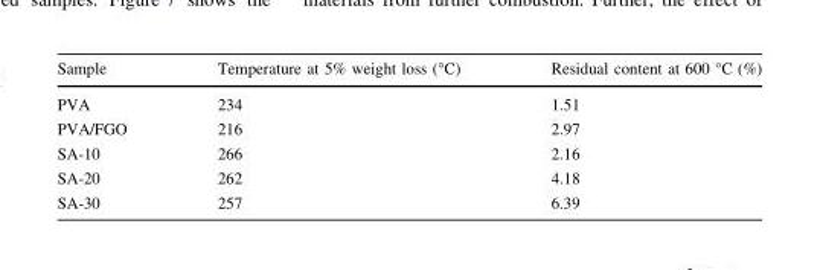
<table><thead><tr><td>Sample</td><td>Temperature at 5% weight loss (°C)</td><td>Residual content at 600 °C (%)</td></tr></thead><tbody><tr><td>PVA</td><td>234</td><td>1.51</td></tr><tr><td>PVA/FGO</td><td>216</td><td>2.97</td></tr><tr><td>SA-10</td><td>266</td><td>2.16</td></tr><tr><td>SA-20</td><td>262</td><td>4.18</td></tr><tr><td>SA-30</td><td>257</td><td>6.39</td></tr></tbody></table>